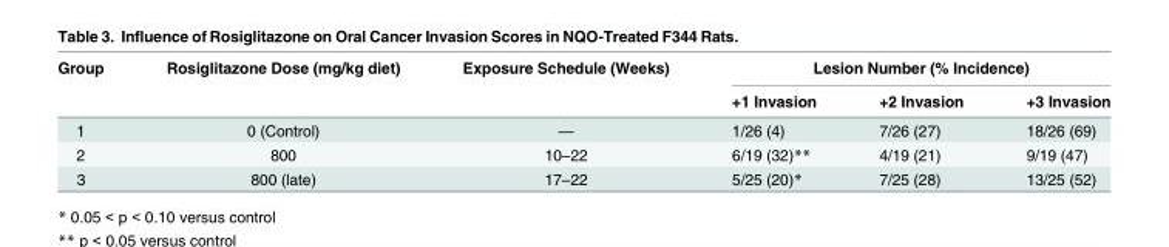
<table><thead><tr><td rowspan="2">Group</td><td rowspan="2">Rosiglitazone Dose (mg/kg diet)</td><td rowspan="2">Exposure Schedule (Weeks)</td><td colspan="3">Lesion Number (% Incidence)</td></tr><tr><td>+1 Invasion</td><td>+2 Invasion</td><td>+3 Invasion</td></tr></thead><tbody><tr><td>1</td><td>0 (Control)</td><td>—</td><td>1/26 (4)</td><td>7/26 (27)</td><td>18/26 (69)</td></tr><tr><td>2</td><td>800</td><td>10–22</td><td>6/19 (32)**</td><td>4/19 (21)</td><td>9/19 (47)</td></tr><tr><td>3</td><td>800 (late)</td><td>17–22</td><td>5/25 (20)*</td><td>7/25 (28)</td><td>13/25 (52)</td></tr></tbody></table>